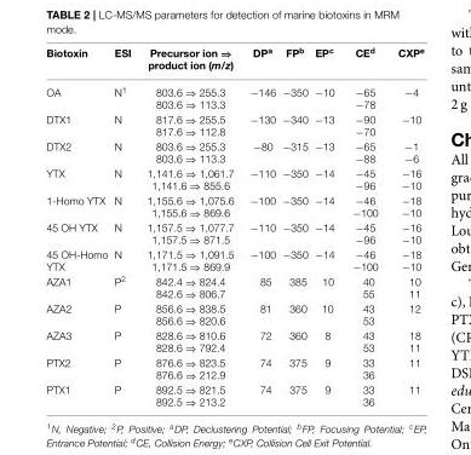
<table><thead><tr><td>Biotoxin</td><td>ESI</td><td>Precursor ion ⇒ product ion (m/z)</td><td>DP<sup>a</sup></td><td>FP<sup>b</sup></td><td>EP<sup>c</sup></td><td>CE<sup>d</sup></td><td>CXP<sup>e</sup></td></tr></thead><tbody><tr><td>OA</td><td>N<sup>1</sup></td><td>803.6 ⇒ 255.3 803.6 ⇒ 113.3</td><td>−146</td><td>−350</td><td>−10</td><td>−65 −78</td><td>−4</td></tr><tr><td>DTX1</td><td>N</td><td>817.6 ⇒ 255.5 817.6 ⇒ 112.8</td><td>−130</td><td>−340</td><td>−13</td><td>−90 −70</td><td>−10</td></tr><tr><td>DTX2</td><td>N</td><td>803.6 ⇒ 255.3 803.6 ⇒ 113.3</td><td>−80</td><td>−315</td><td>−13</td><td>−65 −88</td><td>−1 −6</td></tr><tr><td>YTX</td><td>N</td><td>1,141.6 ⇒ 1,061.7 1,141.6 ⇒ 855.6</td><td>−110</td><td>−350</td><td>−14</td><td>−45 −96</td><td>−16 −10</td></tr><tr><td>1-Homo YTX</td><td>N</td><td>1,155.6 ⇒ 1,075.6 1,155.6 ⇒ 869.6</td><td>−100</td><td>−350</td><td>−14</td><td>−46 −100</td><td>−18 −10</td></tr><tr><td>45 OH YTX</td><td>N</td><td>1,157.5 ⇒ 1,077.7 1,157.5 ⇒ 871.5</td><td>−110</td><td>−350</td><td>−14</td><td>−45 −96</td><td>−16 −10</td></tr><tr><td>45 OH-Homo YTX</td><td>N</td><td>1,171.5 ⇒ 1,091.5 1,171.5 ⇒ 869.9</td><td>−100</td><td>−350</td><td>−14</td><td>−46 −100</td><td>−18 −10</td></tr><tr><td>AZA1</td><td>P<sup>2</sup></td><td>842.4 ⇒ 824.4 842.6 ⇒ 806.7</td><td>85</td><td>385</td><td>10</td><td>40 55</td><td>10 11</td></tr><tr><td>AZA2</td><td>P</td><td>856.6 ⇒ 838.5 856.6 ⇒ 820.6</td><td>81</td><td>360</td><td>10</td><td>43 53</td><td>12</td></tr><tr><td>AZA3</td><td>P</td><td>828.6 ⇒ 810.6 828.6 ⇒ 792.4</td><td>72</td><td>360</td><td>8</td><td>43 53</td><td>18 11</td></tr><tr><td>PTX2</td><td>P</td><td>876.6 ⇒ 823.5 876.6 ⇒ 212.9</td><td>74</td><td>375</td><td>9</td><td>33 36</td><td>11</td></tr><tr><td>PTX1</td><td>P</td><td>892.5 ⇒ 821.5 892.5 ⇒ 213.2</td><td>74</td><td>375</td><td>9</td><td>33 36</td><td>11</td></tr></tbody></table>